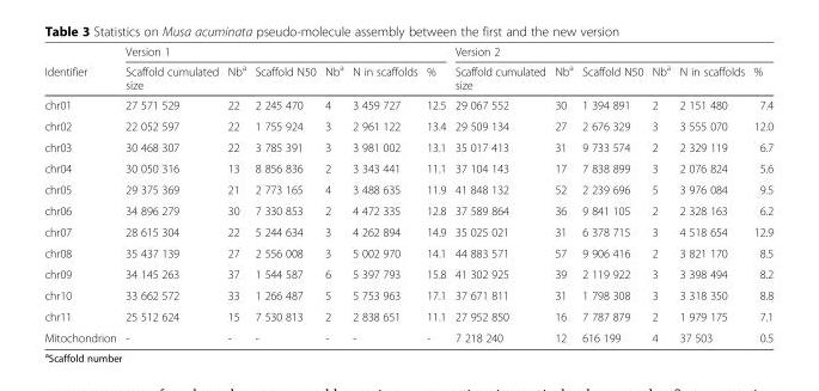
<table><thead><tr><td rowspan="2">Identifier</td><td colspan="6">Version 1</td><td colspan="6">Version 2</td></tr><tr><td>Scaffold cumulated size</td><td>Nb<sup>a</sup></td><td>Scaffold N50</td><td>Nb<sup>a</sup></td><td>N in scaffolds</td><td>%</td><td>Scaffold cumulated size</td><td>Nb<sup>a</sup></td><td>Scaffold N50</td><td>Nb<sup>a</sup></td><td>N in scaffolds</td><td>%</td></tr></thead><tbody><tr><td>chr01</td><td>27 571 529</td><td>22</td><td>2 245 470</td><td>4</td><td>3 459 727</td><td>12.5</td><td>29 067 552</td><td>30</td><td>1 394 891</td><td>2</td><td>2 151 480</td><td>7.4</td></tr><tr><td>chr02</td><td>22 052 597</td><td>22</td><td>1 755 924</td><td>3</td><td>2 961 122</td><td>13.4</td><td>29 509 134</td><td>27</td><td>2 676 329</td><td>3</td><td>3 555 070</td><td>12.0</td></tr><tr><td>chr03</td><td>30 468 307</td><td>22</td><td>3 785 391</td><td>3</td><td>3 981 002</td><td>13.1</td><td>35 017 413</td><td>31</td><td>9 733 574</td><td>2</td><td>2 329 119</td><td>6.7</td></tr><tr><td>chr04</td><td>30 050 316</td><td>13</td><td>8 856 836</td><td>2</td><td>3 343 441</td><td>11.1</td><td>37 104 143</td><td>17</td><td>7 838 899</td><td>3</td><td>2 076 824</td><td>5.6</td></tr><tr><td>chr05</td><td>29 375 369</td><td>21</td><td>2 773 165</td><td>4</td><td>3 488 635</td><td>11.9</td><td>41 848 132</td><td>52</td><td>2 239 696</td><td>5</td><td>3 976 084</td><td>9.5</td></tr><tr><td>chr06</td><td>34 896 279</td><td>30</td><td>7 330 853</td><td>2</td><td>4 472 335</td><td>12.8</td><td>37 589 864</td><td>36</td><td>9 841 105</td><td>2</td><td>2 328 163</td><td>6.2</td></tr><tr><td>chr07</td><td>28 615 304</td><td>22</td><td>5 244 634</td><td>3</td><td>4 262 894</td><td>14.9</td><td>35 025 021</td><td>31</td><td>6 378 715</td><td>3</td><td>4 518 654</td><td>12.9</td></tr><tr><td>chr08</td><td>35 437 139</td><td>27</td><td>2 556 008</td><td>3</td><td>5 002 970</td><td>14.1</td><td>44 883 571</td><td>57</td><td>9 906 416</td><td>2</td><td>3 821 170</td><td>8.5</td></tr><tr><td>chr09</td><td>34 145 263</td><td>37</td><td>1 544 587</td><td>6</td><td>5 397 793</td><td>15.8</td><td>41 302 925</td><td>39</td><td>2 119 922</td><td>3</td><td>3 398 494</td><td>8.2</td></tr><tr><td>chr10</td><td>33 662 572</td><td>33</td><td>1 266 487</td><td>5</td><td>5 753 963</td><td>17.1</td><td>37 671 811</td><td>31</td><td>1 798 308</td><td>3</td><td>3 318 350</td><td>8.8</td></tr><tr><td>chr11</td><td>25 512 624</td><td>15</td><td>7 530 813</td><td>2</td><td>2 838 651</td><td>11.1</td><td>27 952 850</td><td>16</td><td>7 787 879</td><td>2</td><td>1 979 175</td><td>7.1</td></tr><tr><td>Mitochondrion</td><td>-</td><td>-</td><td>-</td><td>-</td><td>-</td><td>-</td><td>7 218 240</td><td>12</td><td>616 199</td><td>4</td><td>37 503</td><td>0.5</td></tr></tbody></table>